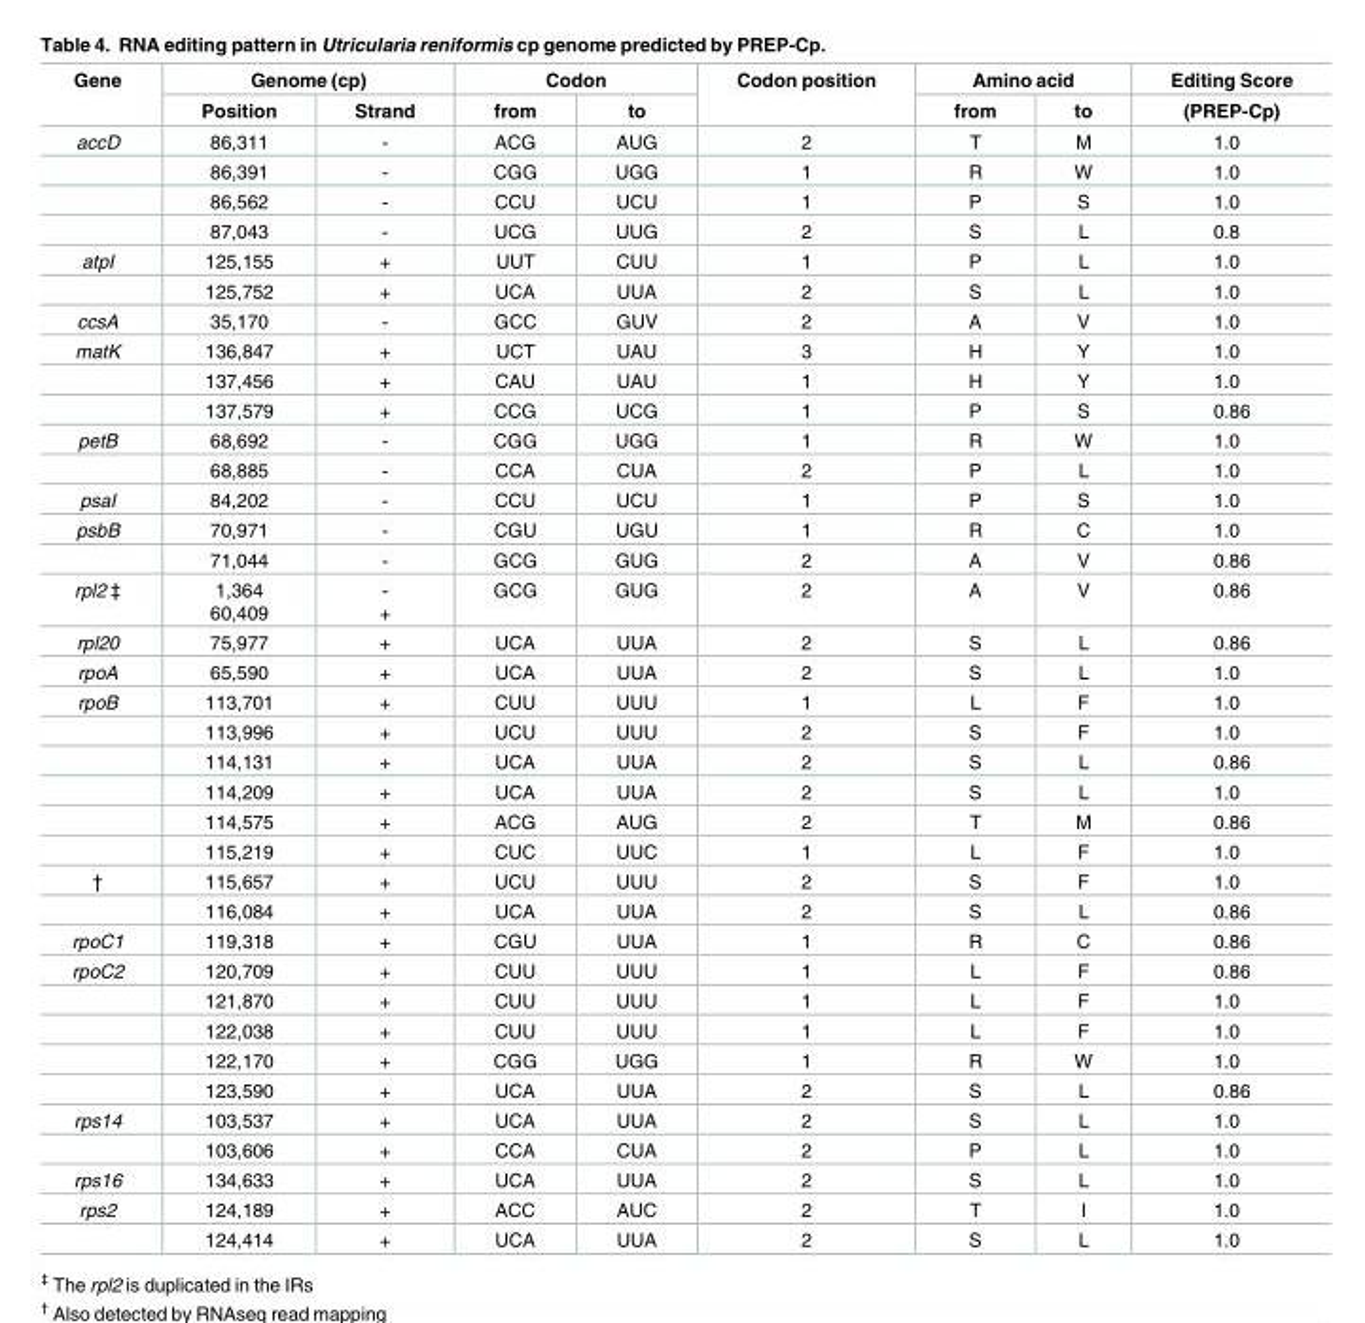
<table><thead><tr><td rowspan="2">Gene</td><td colspan="2">Genome (cp)</td><td colspan="2">Codon</td><td rowspan="2">Codon position</td><td colspan="2">Amino acid</td><td rowspan="2">Editing Score (PREP-Cp)</td></tr><tr><td>Position</td><td>Strand</td><td>from</td><td>to</td><td>from</td><td>to</td></tr></thead><tbody><tr><td rowspan="4">accD</td><td>86,311</td><td>-</td><td>ACG</td><td>AUG</td><td>2</td><td>T</td><td>M</td><td>1.0</td></tr><tr><td>86,391</td><td>-</td><td>CGG</td><td>UGG</td><td>1</td><td>R</td><td>W</td><td>1.0</td></tr><tr><td>86,562</td><td>-</td><td>CCU</td><td>UCU</td><td>1</td><td>P</td><td>S</td><td>1.0</td></tr><tr><td>87,043</td><td>-</td><td>UCG</td><td>UUG</td><td>2</td><td>S</td><td>L</td><td>0.8</td></tr><tr><td rowspan="2">atpI</td><td>125,155</td><td>+</td><td>UUT</td><td>CUU</td><td>1</td><td>P</td><td>L</td><td>1.0</td></tr><tr><td>125,752</td><td>+</td><td>UCA</td><td>UUA</td><td>2</td><td>S</td><td>L</td><td>1.0</td></tr><tr><td>ccsA</td><td>35,170</td><td>-</td><td>GCC</td><td>GUV</td><td>2</td><td>A</td><td>V</td><td>1.0</td></tr><tr><td rowspan="3">matK</td><td>136,847</td><td>+</td><td>UCT</td><td>UAU</td><td>3</td><td>H</td><td>Y</td><td>1.0</td></tr><tr><td>137,456</td><td>+</td><td>CAU</td><td>UAU</td><td>1</td><td>H</td><td>Y</td><td>1.0</td></tr><tr><td>137,579</td><td>+</td><td>CCG</td><td>UCG</td><td>1</td><td>P</td><td>S</td><td>0.86</td></tr><tr><td rowspan="2">petB</td><td>68,692</td><td>-</td><td>CGG</td><td>UGG</td><td>1</td><td>R</td><td>W</td><td>1.0</td></tr><tr><td>68,885</td><td>-</td><td>CCA</td><td>CUA</td><td>2</td><td>P</td><td>L</td><td>1.0</td></tr><tr><td>psaI</td><td>84,202</td><td>-</td><td>CCU</td><td>UCU</td><td>1</td><td>P</td><td>S</td><td>1.0</td></tr><tr><td rowspan="2">psbB</td><td>70,971</td><td>-</td><td>CGU</td><td>UGU</td><td>1</td><td>R</td><td>C</td><td>1.0</td></tr><tr><td>71,044</td><td>-</td><td>GCG</td><td>GUG</td><td>2</td><td>A</td><td>V</td><td>0.86</td></tr><tr><td>rpl2 ‡</td><td>1,364 60,409</td><td>- +</td><td>GCG</td><td>GUG</td><td>2</td><td>A</td><td>V</td><td>0.86</td></tr><tr><td>rpl20</td><td>75,977</td><td>+</td><td>UCA</td><td>UUA</td><td>2</td><td>S</td><td>L</td><td>0.86</td></tr><tr><td>rpoA</td><td>65,590</td><td>+</td><td>UCA</td><td>UUA</td><td>2</td><td>S</td><td>L</td><td>1.0</td></tr><tr><td rowspan="6">rpoB</td><td>113,701</td><td>+</td><td>CUU</td><td>UUU</td><td>1</td><td>L</td><td>F</td><td>1.0</td></tr><tr><td>113,996</td><td>+</td><td>UCU</td><td>UUU</td><td>2</td><td>S</td><td>F</td><td>1.0</td></tr><tr><td>114,131</td><td>+</td><td>UCA</td><td>UUA</td><td>2</td><td>S</td><td>L</td><td>0.86</td></tr><tr><td>114,209</td><td>+</td><td>UCA</td><td>UUA</td><td>2</td><td>S</td><td>L</td><td>1.0</td></tr><tr><td>114,575</td><td>+</td><td>ACG</td><td>AUG</td><td>2</td><td>T</td><td>M</td><td>0.86</td></tr><tr><td>115,219</td><td>+</td><td>CUC</td><td>UUC</td><td>1</td><td>L</td><td>F</td><td>1.0</td></tr><tr><td rowspan="2">†</td><td>115,657</td><td>+</td><td>UCU</td><td>UUU</td><td>2</td><td>S</td><td>F</td><td>1.0</td></tr><tr><td>116,084</td><td>+</td><td>UCA</td><td>UUA</td><td>2</td><td>S</td><td>L</td><td>0.86</td></tr><tr><td>rpoC1</td><td>119,318</td><td>+</td><td>CGU</td><td>UUA</td><td>1</td><td>R</td><td>C</td><td>0.86</td></tr><tr><td rowspan="5">rpoC2</td><td>120,709</td><td>+</td><td>CUU</td><td>UUU</td><td>1</td><td>L</td><td>F</td><td>0.86</td></tr><tr><td>121,870</td><td>+</td><td>CUU</td><td>UUU</td><td>1</td><td>L</td><td>F</td><td>1.0</td></tr><tr><td>122,038</td><td>+</td><td>CUU</td><td>UUU</td><td>1</td><td>L</td><td>F</td><td>1.0</td></tr><tr><td>122,170</td><td>+</td><td>CGG</td><td>UGG</td><td>1</td><td>R</td><td>W</td><td>1.0</td></tr><tr><td>123,590</td><td>+</td><td>UCA</td><td>UUA</td><td>2</td><td>S</td><td>L</td><td>0.86</td></tr><tr><td rowspan="2">rps14</td><td>103,537</td><td>+</td><td>UCA</td><td>UUA</td><td>2</td><td>S</td><td>L</td><td>1.0</td></tr><tr><td>103,606</td><td>+</td><td>CCA</td><td>CUA</td><td>2</td><td>P</td><td>L</td><td>1.0</td></tr><tr><td>rps16</td><td>134,633</td><td>+</td><td>UCA</td><td>UUA</td><td>2</td><td>S</td><td>L</td><td>1.0</td></tr><tr><td rowspan="2">rps2</td><td>124,189</td><td>+</td><td>ACC</td><td>AUC</td><td>2</td><td>T</td><td>I</td><td>1.0</td></tr><tr><td>124,414</td><td>+</td><td>UCA</td><td>UUA</td><td>2</td><td>S</td><td>L</td><td>1.0</td></tr></tbody></table>